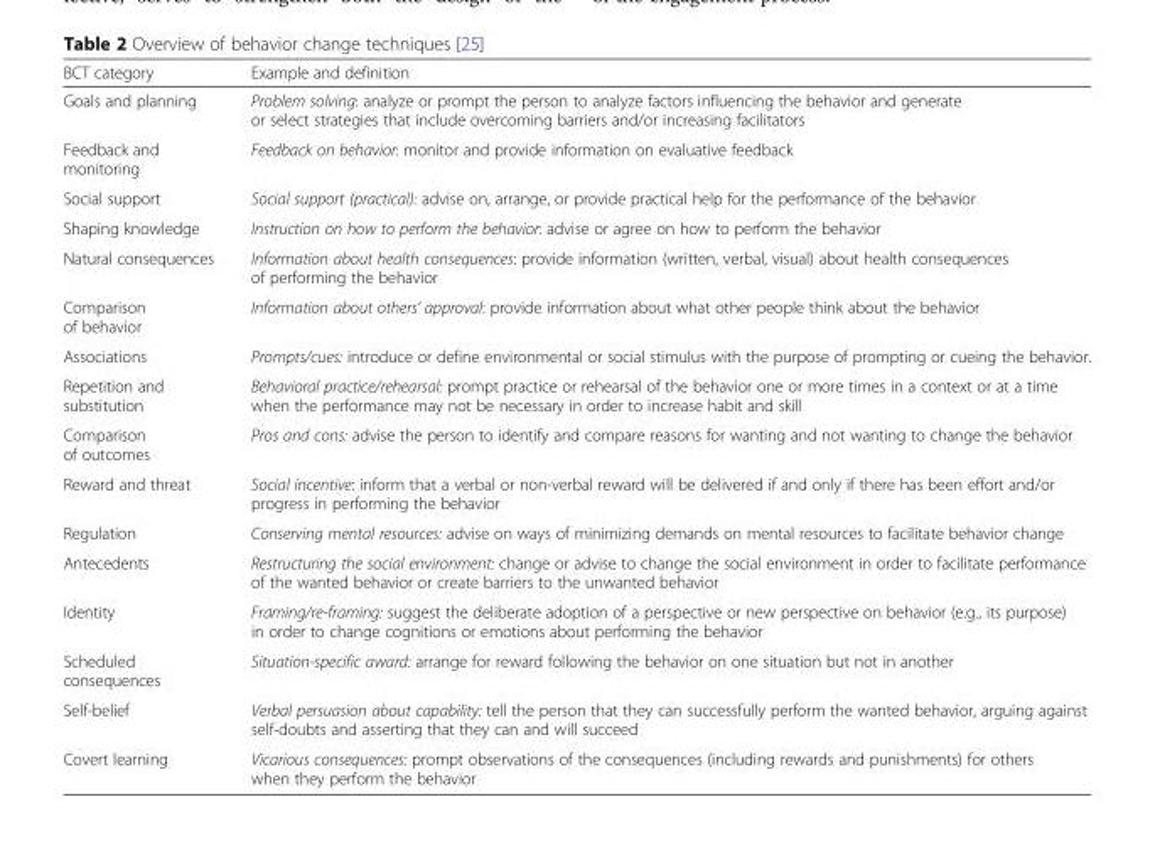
<table><thead><tr><td>BCT category</td><td>Example and definition</td></tr></thead><tbody><tr><td>Goals and planning</td><td>Problem solving: analyze or prompt the person to analyze factors influencing the behavior and generate or select strategies that include overcoming barriers and/or increasing facilitators</td></tr><tr><td>Feedback and monitoring</td><td>Feedback on behavior: monitor and provide information on evaluative feedback</td></tr><tr><td>Social support</td><td>Social support (practical): advise on, arrange, or provide practical help for the performance of the behavior</td></tr><tr><td>Shaping knowledge</td><td>Instruction on how to perform the behavior: advise or agree on how to perform the behavior</td></tr><tr><td>Natural consequences</td><td>Information about health consequences: provide information (written, verbal, visual) about health consequences of performing the behavior</td></tr><tr><td>Comparison of behavior</td><td>Information about others’ approval: provide information about what other people think about the behavior</td></tr><tr><td>Associations</td><td>Prompts/cues: introduce or define environmental or social stimulus with the purpose of prompting or cueing the behavior.</td></tr><tr><td>Repetition and substitution</td><td>Behavioral practice/rehearsal: prompt practice or rehearsal of the behavior one or more times in a context or at a time when the performance may not be necessary in order to increase habit and skill</td></tr><tr><td>Comparison of outcomes</td><td>Pros and cons: advise the person to identify and compare reasons for wanting and not wanting to change the behavior</td></tr><tr><td>Reward and threat</td><td>Social incentive: inform that a verbal or non-verbal reward will be delivered if and only if there has been effort and/or progress in performing the behavior</td></tr><tr><td>Regulation</td><td>Conserving mental resources: advise on ways of minimizing demands on mental resources to facilitate behavior change</td></tr><tr><td>Antecedents</td><td>Restructuring the social environment: change or advise to change the social environment in order to facilitate performance of the wanted behavior or create barriers to the unwanted behavior</td></tr><tr><td>Identity</td><td>Framing/re-framing: suggest the deliberate adoption of a perspective or new perspective on behavior (e.g., its purpose) in order to change cognitions or emotions about performing the behavior</td></tr><tr><td>Scheduled consequences</td><td>Situation-specific award: arrange for reward following the behavior on one situation but not in another</td></tr><tr><td>Self-belief</td><td>Verbal persuasion about capability: tell the person that they can successfully perform the wanted behavior, arguing against self-doubts and asserting that they can and will succeed</td></tr><tr><td>Covert learning</td><td>Vicarious consequences: prompt observations of the consequences (including rewards and punishments) for others when they perform the behavior</td></tr></tbody></table>